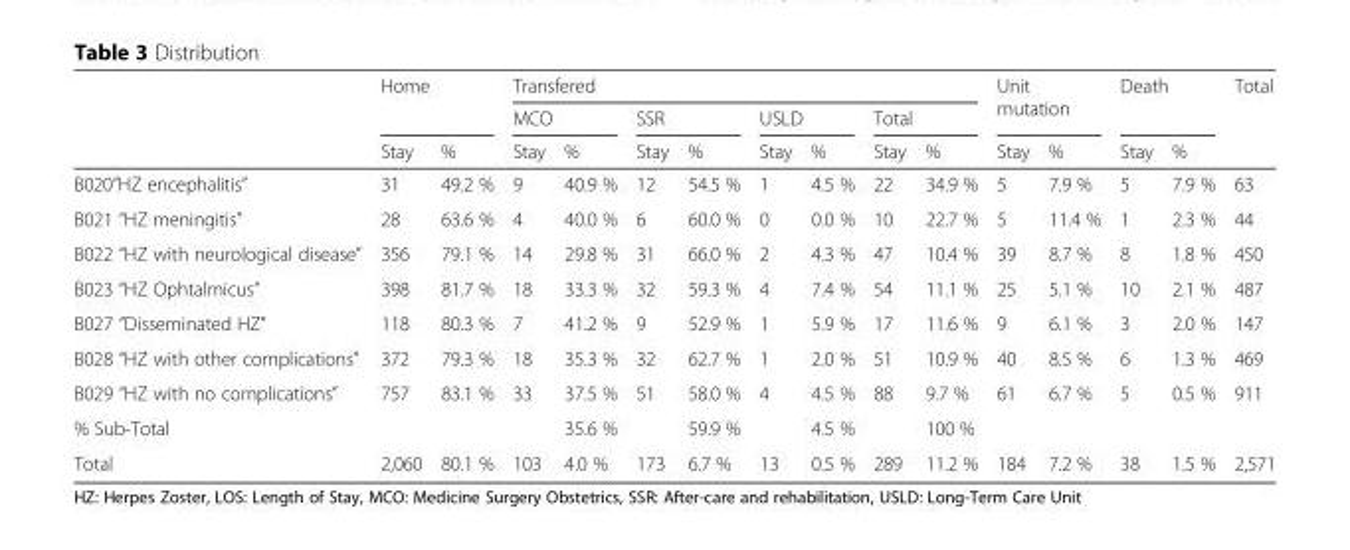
<table><thead><tr><td rowspan="3"></td><td rowspan="2" colspan="2">Home</td><td colspan="8">Transfered</td><td rowspan="2" colspan="2">Unit mutation</td><td rowspan="2" colspan="2">Death</td><td rowspan="3">Total</td></tr><tr><td colspan="2">MCO</td><td colspan="2">SSR</td><td colspan="2">USLD</td><td colspan="2">Total</td></tr><tr><td>Stay</td><td>%</td><td>Stay</td><td>%</td><td>Stay</td><td>%</td><td>Stay</td><td>%</td><td>Stay</td><td>%</td><td>Stay</td><td>%</td><td>Stay</td><td>%</td></tr></thead><tbody><tr><td>B020”HZ encephalitis”</td><td>31</td><td>49.2 %</td><td>9</td><td>40.9 %</td><td>12</td><td>54.5 %</td><td>1</td><td>4.5 %</td><td>22</td><td>34.9 %</td><td>5</td><td>7.9 %</td><td>5</td><td>7.9 %</td><td>63</td></tr><tr><td>B021 “HZ meningitis”</td><td>28</td><td>63.6 %</td><td>4</td><td>40.0 %</td><td>6</td><td>60.0 %</td><td>0</td><td>0.0 %</td><td>10</td><td>22.7 %</td><td>5</td><td>11.4 %</td><td>1</td><td>2.3 %</td><td>44</td></tr><tr><td>B022 “HZ with neurological disease”</td><td>356</td><td>79.1 %</td><td>14</td><td>29.8 %</td><td>31</td><td>66.0 %</td><td>2</td><td>4.3 %</td><td>47</td><td>10.4 %</td><td>39</td><td>8.7 %</td><td>8</td><td>1.8 %</td><td>450</td></tr><tr><td>B023 “HZ Ophtalmicus”</td><td>398</td><td>81.7 %</td><td>18</td><td>33.3 %</td><td>32</td><td>59.3 %</td><td>4</td><td>7.4 %</td><td>54</td><td>11.1 %</td><td>25</td><td>5.1 %</td><td>10</td><td>2.1 %</td><td>487</td></tr><tr><td>B027 “Disseminated HZ”</td><td>118</td><td>80.3 %</td><td>7</td><td>41.2 %</td><td>9</td><td>52.9 %</td><td>1</td><td>5.9 %</td><td>17</td><td>11.6 %</td><td>9</td><td>6.1 %</td><td>3</td><td>2.0 %</td><td>147</td></tr><tr><td>B028 “HZ with other complications”</td><td>372</td><td>79.3 %</td><td>18</td><td>35.3 %</td><td>32</td><td>62.7 %</td><td>1</td><td>2.0 %</td><td>51</td><td>10.9 %</td><td>40</td><td>8.5 %</td><td>6</td><td>1.3 %</td><td>469</td></tr><tr><td>B029 “HZ with no complications”</td><td>757</td><td>83.1 %</td><td>33</td><td>37.5 %</td><td>51</td><td>58.0 %</td><td>4</td><td>4.5 %</td><td>88</td><td>9.7 %</td><td>61</td><td>6.7 %</td><td>5</td><td>0.5 %</td><td>911</td></tr><tr><td>% Sub-Total</td><td></td><td></td><td></td><td>35.6 %</td><td></td><td>59.9 %</td><td></td><td>4.5 %</td><td></td><td>100 %</td><td></td><td></td><td></td><td></td><td></td></tr><tr><td>Total</td><td>2,060</td><td>80.1 %</td><td>103</td><td>4.0 %</td><td>173</td><td>6.7 %</td><td>13</td><td>0.5 %</td><td>289</td><td>11.2 %</td><td>184</td><td>7.2 %</td><td>38</td><td>1.5 %</td><td>2,571</td></tr></tbody></table>